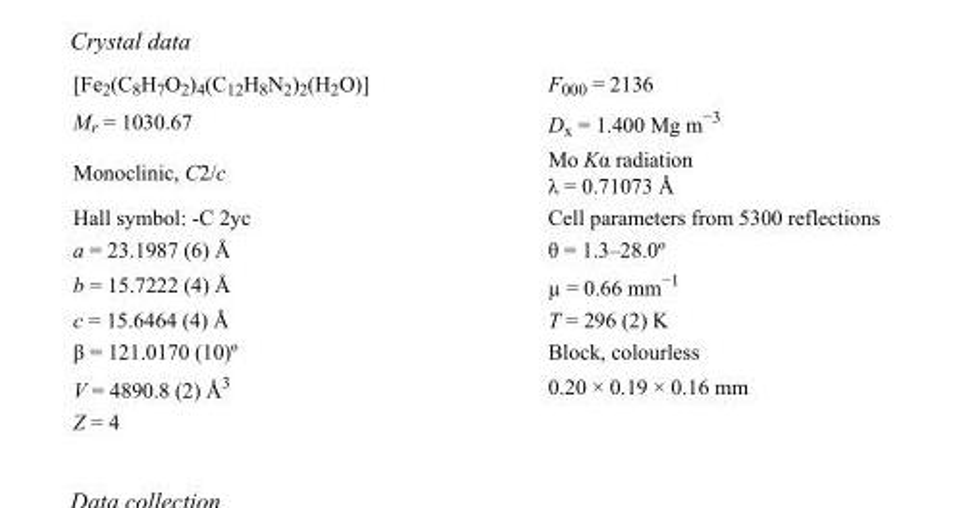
<table><tbody><tr><td>[Fe<sub>2</sub>(C<sub>8</sub>H<sub>7</sub>O<sub>2</sub>)<sub>4</sub>(C<sub>12</sub>H<sub>8</sub>N<sub>2</sub>)<sub>2</sub>(H<sub>2</sub>O)]</td><td>F<sub>000</sub> = 2136</td></tr><tr><td>M<sub>r</sub> = 1030.67</td><td>D<sub>x</sub> = 1.400 Mg m<sup>−3</sup></td></tr><tr><td>Monoclinic, C2/c</td><td>Mo Kα radiation λ = 0.71073 Å</td></tr><tr><td>Hall symbol: -C 2yc</td><td>Cell parameters from 5300 reflections</td></tr><tr><td>a = 23.1987 (6) Å</td><td>θ = 1.3–28.0º</td></tr><tr><td>b = 15.7222 (4) Å</td><td>µ = 0.66 mm<sup>−1</sup></td></tr><tr><td>c = 15.6464 (4) Å</td><td>T = 296 (2) K</td></tr><tr><td>β = 121.0170 (10)º</td><td>Block, colourless</td></tr><tr><td>V = 4890.8 (2) Å<sup>3</sup></td><td>0.20 × 0.19 × 0.16 mm</td></tr><tr><td>Z = 4</td><td></td></tr></tbody></table>